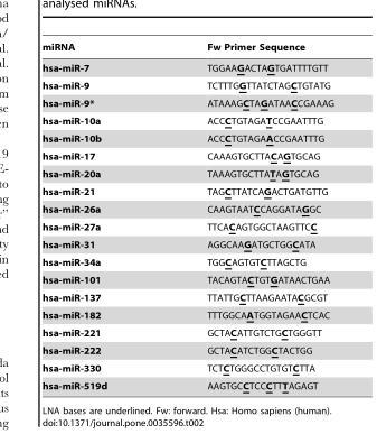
<table><thead><tr><td>miRNA</td><td>Fw Primer Sequence</td></tr></thead><tbody><tr><td>hsa-miR-7</td><td>TGGAAGACTAGTGATTTTGTT</td></tr><tr><td>hsa-miR-9</td><td>TCTTTGGTTATCTAGCTGTATG</td></tr><tr><td>hsa-miR-9*</td><td>ATAAAGCTAGATAACCGAAAG</td></tr><tr><td>hsa-miR-10a</td><td>ACCCTGTAGATCCGAATTTG</td></tr><tr><td>hsa-miR-10b</td><td>ACCCTGTAGAACCGAATTTG</td></tr><tr><td>hsa-miR-17</td><td>CAAAGTGCTTACAGTGCAG</td></tr><tr><td>hsa-miR-20a</td><td>TAAAGTGCTTATAGTGCAG</td></tr><tr><td>hsa-miR-21</td><td>TAGCTTATCAGACTGATGTTG</td></tr><tr><td>hsa-miR-26a</td><td>CAAGTAATCCAGGATAGGC</td></tr><tr><td>hsa-miR-27a</td><td>TTCACAGTGGCTAAGTTCC</td></tr><tr><td>hsa-miR-31</td><td>AGGCAAGATGCTGGCATA</td></tr><tr><td>hsa-miR-34a</td><td>TGGCAGTGTCTTAGCTG</td></tr><tr><td>hsa-miR-101</td><td>TACAGTACTGTGATAACTGAA</td></tr><tr><td>hsa-miR-137</td><td>TTATTGCTTAAGAATACGCGT</td></tr><tr><td>hsa-miR-182</td><td>TTTGGCAATGGTAGAACTCAC</td></tr><tr><td>hsa-miR-221</td><td>GCTACATTGTCTGCTGGGTT</td></tr><tr><td>hsa-miR-222</td><td>GCTACATCTGGCTACTGG</td></tr><tr><td>hsa-miR-330</td><td>TCTCTGGGCCTGTGTCTTA</td></tr><tr><td>hsa-miR-519d</td><td>AAGTGCCTCCCTTTAGAGT</td></tr></tbody></table>